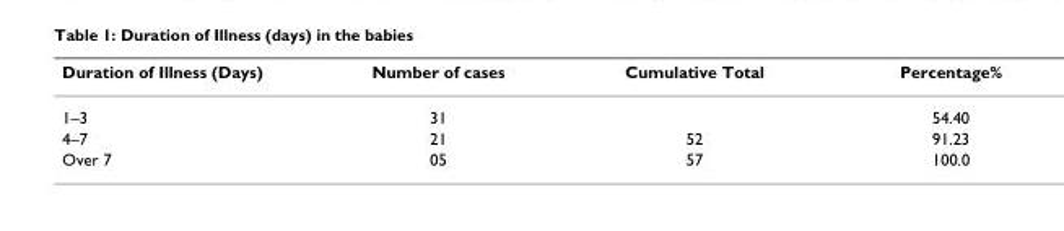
<table><thead><tr><td>Duration of Illness (Days)</td><td>Number of cases</td><td>Cumulative Total</td><td>Percentage%</td></tr></thead><tbody><tr><td>1–3</td><td>31</td><td></td><td>54.40</td></tr><tr><td>4–7</td><td>21</td><td>52</td><td>91.23</td></tr><tr><td>Over 7</td><td>05</td><td>57</td><td>100.0</td></tr></tbody></table>